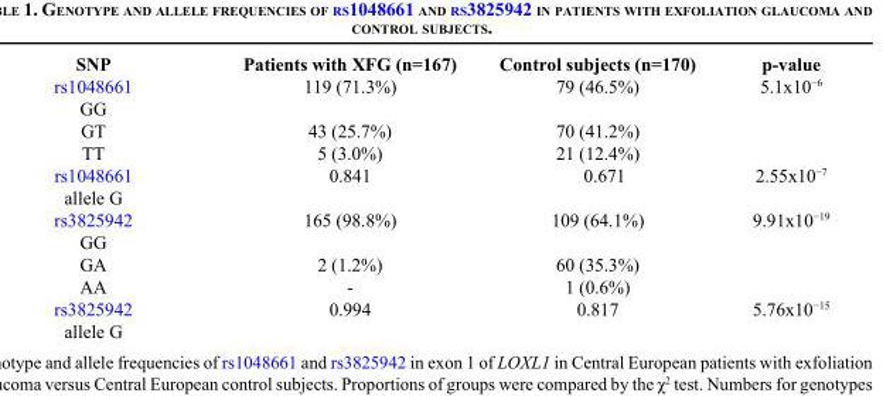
<table><tbody><tr><td>SNP</td><td>Patients with XFG (n=167)</td><td>Control subjects (n=170)</td><td>p-value</td></tr><tr><td>rs1048661 GG</td><td>119 (71.3%)</td><td>79 (46.5%)</td><td>5.1x10<sup>−6</sup></td></tr><tr><td>GT</td><td>43 (25.7%)</td><td>70 (41.2%)</td><td></td></tr><tr><td>TT</td><td>5 (3.0%)</td><td>21 (12.4%)</td><td></td></tr><tr><td>rs1048661 allele G</td><td>0.841</td><td>0.671</td><td>2.55x10<sup>−7</sup></td></tr><tr><td>rs3825942 GG</td><td>165 (98.8%)</td><td>109 (64.1%)</td><td>9.91x10<sup>−19</sup></td></tr><tr><td>GA</td><td>2 (1.2%)</td><td>60 (35.3%)</td><td></td></tr><tr><td>AA</td><td>-</td><td>1 (0.6%)</td><td></td></tr><tr><td>rs3825942 allele G</td><td>0.994</td><td>0.817</td><td>5.76x10<sup>−15</sup></td></tr></tbody></table>